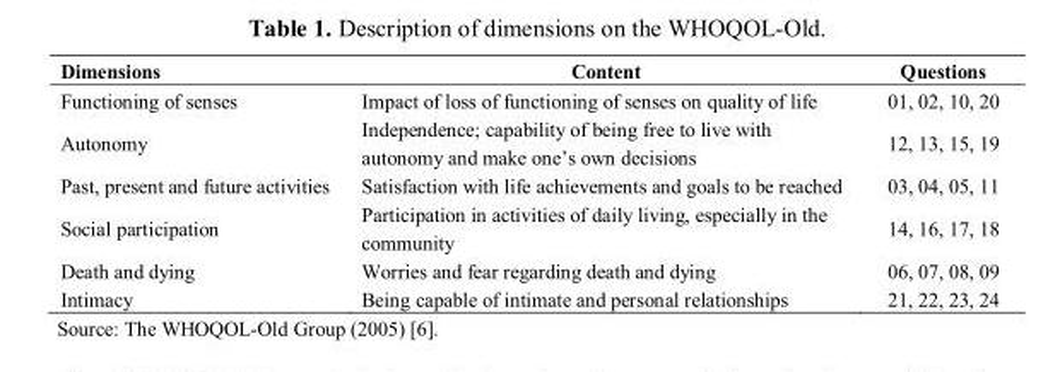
<table><thead><tr><td>Dimensions</td><td>Content</td><td>Questions</td></tr></thead><tbody><tr><td>Functioning of senses</td><td>Impact of loss of functioning of senses on quality of life</td><td>01, 02, 10, 20</td></tr><tr><td>Autonomy</td><td>Independence; capability of being free to live with autonomy and make one’s own decisions</td><td>12, 13, 15, 19</td></tr><tr><td>Past, present and future activities</td><td>Satisfaction with life achievements and goals to be reached</td><td>03, 04, 05, 11</td></tr><tr><td>Social participation</td><td>Participation in activities of daily living, especially in the community</td><td>14, 16, 17, 18</td></tr><tr><td>Death and dying</td><td>Worries and fear regarding death and dying</td><td>06, 07, 08, 09</td></tr><tr><td>Intimacy</td><td>Being capable of intimate and personal relationships</td><td>21, 22, 23, 24</td></tr></tbody></table>